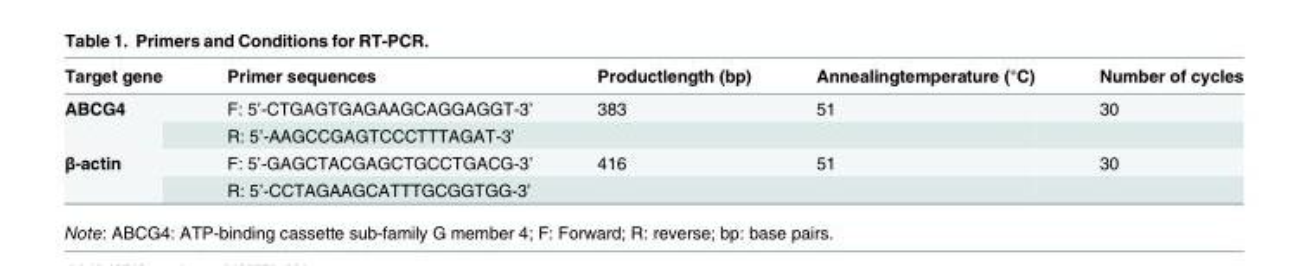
<table><thead><tr><td>Target gene</td><td>Primer sequences</td><td>Productlength (bp)</td><td>Annealingtemperature (°C)</td><td>Number of cycles</td></tr></thead><tbody><tr><td rowspan="2">ABCG4</td><td>F: 5’-CTGAGTGAGAAGCAGGAGGT-3’</td><td>383</td><td>51</td><td>30</td></tr><tr><td>R: 5’-AAGCCGAGTCCCTTTAGAT-3’</td><td></td><td></td><td></td></tr><tr><td rowspan="2">β-actin</td><td>F: 5’-GAGCTACGAGCTGCCTGACG-3’</td><td>416</td><td>51</td><td>30</td></tr><tr><td>R: 5’-CCTAGAAGCATTTGCGGTGG-3’</td><td></td><td></td><td></td></tr></tbody></table>